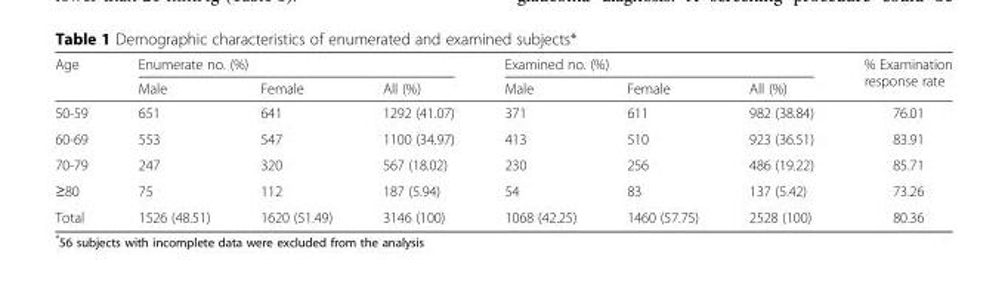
<table><thead><tr><td rowspan="2">Age</td><td colspan="3">Enumerate no. (%)</td><td colspan="3">Examined no. (%)</td><td rowspan="2">% Examination response rate</td></tr><tr><td>Male</td><td>Female</td><td>All (%)</td><td>Male</td><td>Female</td><td>All (%)</td></tr></thead><tbody><tr><td>50-59</td><td>651</td><td>641</td><td>1292 (41.07)</td><td>371</td><td>611</td><td>982 (38.84)</td><td>76.01</td></tr><tr><td>60-69</td><td>553</td><td>547</td><td>1100 (34.97)</td><td>413</td><td>510</td><td>923 (36.51)</td><td>83.91</td></tr><tr><td>70-79</td><td>247</td><td>320</td><td>567 (18.02)</td><td>230</td><td>256</td><td>486 (19.22)</td><td>85.71</td></tr><tr><td>≥80</td><td>75</td><td>112</td><td>187 (5.94)</td><td>54</td><td>83</td><td>137 (5.42)</td><td>73.26</td></tr><tr><td>Total</td><td>1526 (48.51)</td><td>1620 (51.49)</td><td>3146 (100)</td><td>1068 (42.25)</td><td>1460 (57.75)</td><td>2528 (100)</td><td>80.36</td></tr></tbody></table>